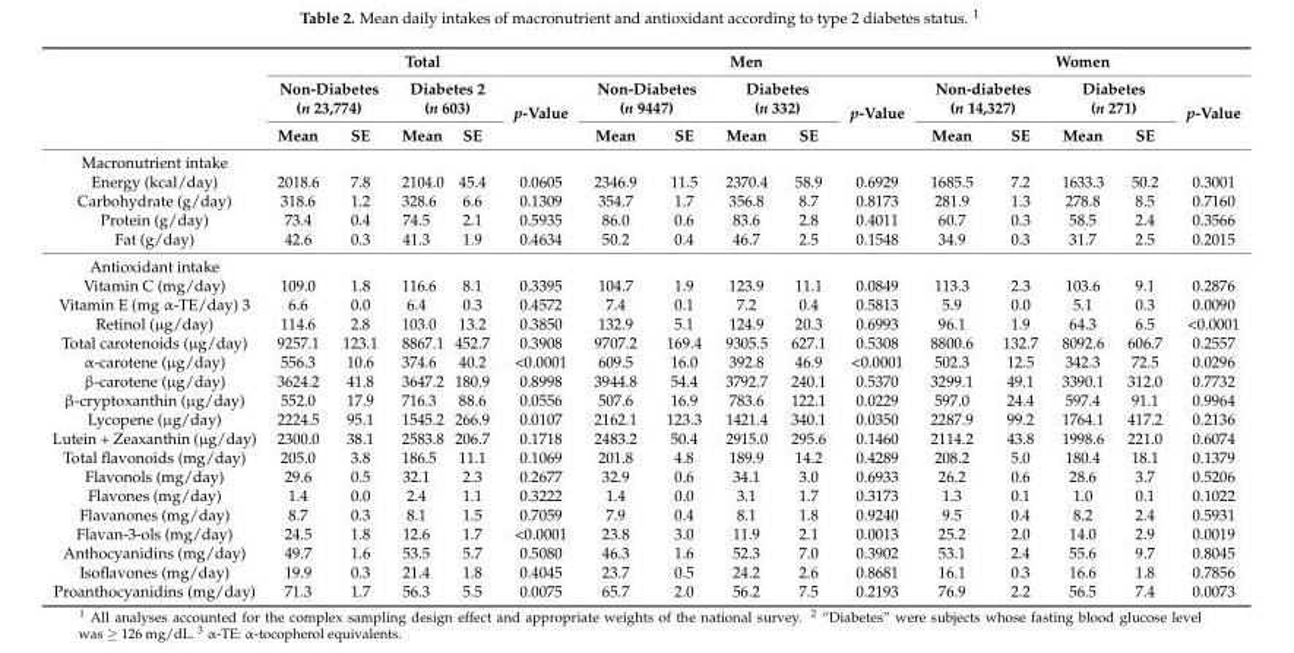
<table><thead><tr><td rowspan="3"></td><td colspan="5">Total</td><td colspan="5">Men</td><td colspan="5">Women</td></tr><tr><td colspan="2">Non-Diabetes (n 23,774)</td><td colspan="2">Diabetes 2 (n 603)</td><td rowspan="2">p-Value</td><td colspan="2">Non-Diabetes (n 9447)</td><td colspan="2">Diabetes (n 332)</td><td rowspan="2">p-Value</td><td colspan="2">Non-diabetes (n 14,327)</td><td colspan="2">Diabetes (n 271)</td><td rowspan="2">p-Value</td></tr><tr><td>Mean</td><td>SE</td><td>Mean</td><td>SE</td><td>Mean</td><td>SE</td><td>Mean</td><td>SE</td><td>Mean</td><td>SE</td><td>Mean</td><td>SE</td></tr></thead><tbody><tr><td colspan="16">Macronutrient intake</td></tr><tr><td>Energy (kcal/day)</td><td>2018.6</td><td>7.8</td><td>2104.0</td><td>45.4</td><td>0.0605</td><td>2346.9</td><td>11.5</td><td>2370.4</td><td>58.9</td><td>0.6929</td><td>1685.5</td><td>7.2</td><td>1633.3</td><td>50.2</td><td>0.3001</td></tr><tr><td>Carbohydrate (g/day)</td><td>318.6</td><td>1.2</td><td>328.6</td><td>6.6</td><td>0.1309</td><td>354.7</td><td>1.7</td><td>356.8</td><td>8.7</td><td>0.8173</td><td>281.9</td><td>1.3</td><td>278.8</td><td>8.5</td><td>0.7160</td></tr><tr><td>Protein (g/day)</td><td>73.4</td><td>0.4</td><td>74.5</td><td>2.1</td><td>0.5935</td><td>86.0</td><td>0.6</td><td>83.6</td><td>2.8</td><td>0.4011</td><td>60.7</td><td>0.3</td><td>58.5</td><td>2.4</td><td>0.3566</td></tr><tr><td>Fat (g/day)</td><td>42.6</td><td>0.3</td><td>41.3</td><td>1.9</td><td>0.4634</td><td>50.2</td><td>0.4</td><td>46.7</td><td>2.5</td><td>0.1548</td><td>34.9</td><td>0.3</td><td>31.7</td><td>2.5</td><td>0.2015</td></tr><tr><td colspan="16">Antioxidant intake</td></tr><tr><td>Vitamin C (mg/day)</td><td>109.0</td><td>1.8</td><td>116.6</td><td>8.1</td><td>0.3395</td><td>104.7</td><td>1.9</td><td>123.9</td><td>11.1</td><td>0.0849</td><td>113.3</td><td>2.3</td><td>103.6</td><td>9.1</td><td>0.2876</td></tr><tr><td>Vitamin E (mg α-TE/day) 3</td><td>6.6</td><td>0.0</td><td>6.4</td><td>0.3</td><td>0.4572</td><td>7.4</td><td>0.1</td><td>7.2</td><td>0.4</td><td>0.5813</td><td>5.9</td><td>0.0</td><td>5.1</td><td>0.3</td><td>0.0090</td></tr><tr><td>Retinol (µg/day)</td><td>114.6</td><td>2.8</td><td>103.0</td><td>13.2</td><td>0.3850</td><td>132.9</td><td>5.1</td><td>124.9</td><td>20.3</td><td>0.6993</td><td>96.1</td><td>1.9</td><td>64.3</td><td>6.5</td><td>&lt;0.0001</td></tr><tr><td>Total carotenoids (µg/day)</td><td>9257.1</td><td>123.1</td><td>8867.1</td><td>452.7</td><td>0.3908</td><td>9707.2</td><td>169.4</td><td>9305.5</td><td>627.1</td><td>0.5308</td><td>8800.6</td><td>132.7</td><td>8092.6</td><td>606.7</td><td>0.2557</td></tr><tr><td>α-carotene (µg/day)</td><td>556.3</td><td>10.6</td><td>374.6</td><td>40.2</td><td>&lt;0.0001</td><td>609.5</td><td>16.0</td><td>392.8</td><td>46.9</td><td>&lt;0.0001</td><td>502.3</td><td>12.5</td><td>342.3</td><td>72.5</td><td>0.0296</td></tr><tr><td>β-carotene (µg/day)</td><td>3624.2</td><td>41.8</td><td>3647.2</td><td>180.9</td><td>0.8998</td><td>3944.8</td><td>54.4</td><td>3792.7</td><td>240.1</td><td>0.5370</td><td>3299.1</td><td>49.1</td><td>3390.1</td><td>312.0</td><td>0.7732</td></tr><tr><td>β-cryptoxanthin (µg/day)</td><td>552.0</td><td>17.9</td><td>716.3</td><td>88.6</td><td>0.0556</td><td>507.6</td><td>16.9</td><td>783.6</td><td>122.1</td><td>0.0229</td><td>597.0</td><td>24.4</td><td>597.4</td><td>91.1</td><td>0.9964</td></tr><tr><td>Lycopene (µg/day)</td><td>2224.5</td><td>95.1</td><td>1545.2</td><td>266.9</td><td>0.0107</td><td>2162.1</td><td>123.3</td><td>1421.4</td><td>340.1</td><td>0.0350</td><td>2287.9</td><td>99.2</td><td>1764.1</td><td>417.2</td><td>0.2136</td></tr><tr><td>Lutein + Zeaxanthin (µg/day)</td><td>2300.0</td><td>38.1</td><td>2583.8</td><td>206.7</td><td>0.1718</td><td>2483.2</td><td>50.4</td><td>2915.0</td><td>295.6</td><td>0.1460</td><td>2114.2</td><td>43.8</td><td>1998.6</td><td>221.0</td><td>0.6074</td></tr><tr><td>Total flavonoids (mg/day)</td><td>205.0</td><td>3.8</td><td>186.5</td><td>11.1</td><td>0.1069</td><td>201.8</td><td>4.8</td><td>189.9</td><td>14.2</td><td>0.4289</td><td>208.2</td><td>5.0</td><td>180.4</td><td>18.1</td><td>0.1379</td></tr><tr><td>Flavonols (mg/day)</td><td>29.6</td><td>0.5</td><td>32.1</td><td>2.3</td><td>0.2677</td><td>32.9</td><td>0.6</td><td>34.1</td><td>3.0</td><td>0.6933</td><td>26.2</td><td>0.6</td><td>28.6</td><td>3.7</td><td>0.5206</td></tr><tr><td>Flavones (mg/day)</td><td>1.4</td><td>0.0</td><td>2.4</td><td>1.1</td><td>0.3222</td><td>1.4</td><td>0.0</td><td>3.1</td><td>1.7</td><td>0.3173</td><td>1.3</td><td>0.1</td><td>1.0</td><td>0.1</td><td>0.1022</td></tr><tr><td>Flavanones (mg/day)</td><td>8.7</td><td>0.3</td><td>8.1</td><td>1.5</td><td>0.7059</td><td>7.9</td><td>0.4</td><td>8.1</td><td>1.8</td><td>0.9240</td><td>9.5</td><td>0.4</td><td>8.2</td><td>2.4</td><td>0.5931</td></tr><tr><td>Flavan-3-ols (mg/day)</td><td>24.5</td><td>1.8</td><td>12.6</td><td>1.7</td><td>&lt;0.0001</td><td>23.8</td><td>3.0</td><td>11.9</td><td>2.1</td><td>0.0013</td><td>25.2</td><td>2.0</td><td>14.0</td><td>2.9</td><td>0.0019</td></tr><tr><td>Anthocyanidins (mg/day)</td><td>49.7</td><td>1.6</td><td>53.5</td><td>5.7</td><td>0.5080</td><td>46.3</td><td>1.6</td><td>52.3</td><td>7.0</td><td>0.3902</td><td>53.1</td><td>2.4</td><td>55.6</td><td>9.7</td><td>0.8045</td></tr><tr><td>Isoflavones (mg/day)</td><td>19.9</td><td>0.3</td><td>21.4</td><td>1.8</td><td>0.4045</td><td>23.7</td><td>0.5</td><td>24.2</td><td>2.6</td><td>0.8681</td><td>16.1</td><td>0.3</td><td>16.6</td><td>1.8</td><td>0.7856</td></tr><tr><td>Proanthocyanidins (mg/day)</td><td>71.3</td><td>1.7</td><td>56.3</td><td>5.5</td><td>0.0075</td><td>65.7</td><td>2.0</td><td>56.2</td><td>7.5</td><td>0.2193</td><td>76.9</td><td>2.2</td><td>56.5</td><td>7.4</td><td>0.0073</td></tr></tbody></table>